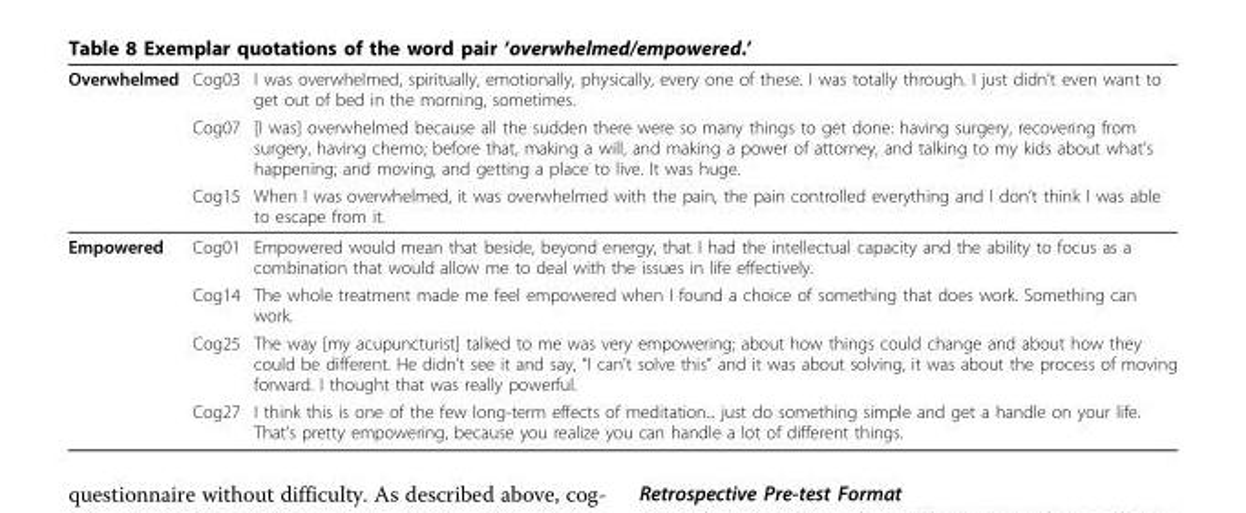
<table><thead><tr><td rowspan="3">Overwhelmed</td><td rowspan="3">Cog03 Cog07 Cog15</td><td rowspan="3">I was overwhelmed, spiritually, emotionally, physically, every one of these. I was totally through. I just didn’t even want to get out of bed in the morning, sometimes. [I was] overwhelmed because all the sudden there were so many things to get done: having surgery, recovering from surgery, having chemo; before that, making a will, and making a power of attorney, and talking to my kids about what’s happening; and moving, and getting a place to live. It was huge. When I was overwhelmed, it was overwhelmed with the pain, the pain controlled everything and I don’t think I was able to escape from it.</td></tr><tr></tr><tr></tr></thead><tbody><tr><td rowspan="4">Empowered</td><td>Cog01</td><td>Empowered would mean that beside, beyond energy, that I had the intellectual capacity and the ability to focus as a combination that would allow me to deal with the issues in life effectively.</td></tr><tr><td>Cog14</td><td>The whole treatment made me feel empowered when I found a choice of something that does work. Something can work.</td></tr><tr><td>Cog25</td><td>The way [my acupuncturist] talked to me was very empowering; about how things could change and about how they could be different. He didn’t see it and say, “I can’t solve this” and it was about solving, it was about the process of moving forward. I thought that was really powerful.</td></tr><tr><td>Cog27</td><td>I think this is one of the few long-term effects of meditation... just do something simple and get a handle on your life. That’s pretty empowering, because you realize you can handle a lot of different things.</td></tr></tbody></table>